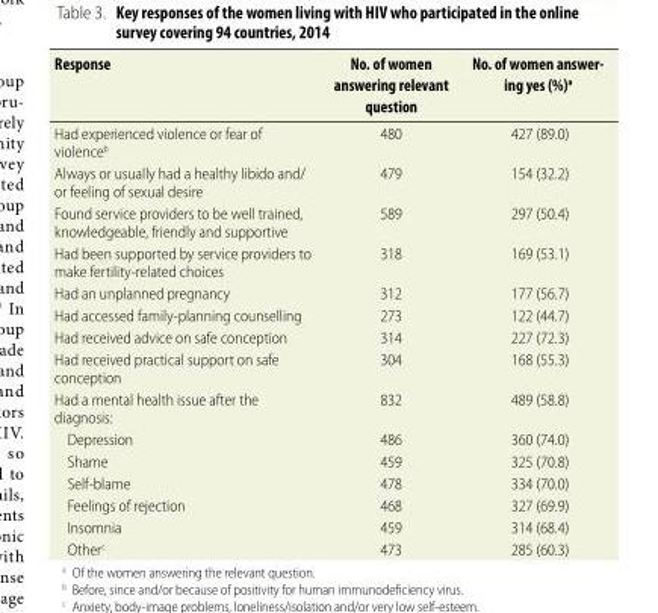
<table><thead><tr><td>Response</td><td>No. of women answering relevant question</td><td>No. of women answer- ing yes (%)a</td></tr></thead><tbody><tr><td>Had experienced violence or fear of violence<sup>b</sup></td><td>480</td><td>427 (89.0)</td></tr><tr><td>Always or usually had a healthy libido and/ or feeling of sexual desire</td><td>479</td><td>154 (32.2)</td></tr><tr><td>Found service providers to be well trained, knowledgeable, friendly and supportive</td><td>589</td><td>297 (50.4)</td></tr><tr><td>Had been supported by service providers to make fertility-related choices</td><td>318</td><td>169 (53.1)</td></tr><tr><td>Had an unplanned pregnancy</td><td>312</td><td>177 (56.7)</td></tr><tr><td>Had accessed family-planning counselling</td><td>273</td><td>122 (44.7)</td></tr><tr><td>Had received advice on safe conception</td><td>314</td><td>227 (72.3)</td></tr><tr><td>Had received practical support on safe conception</td><td>304</td><td>168 (55.3)</td></tr><tr><td>Had a mental health issue after the diagnosis:</td><td>832</td><td>489 (58.8)</td></tr><tr><td>Depression</td><td>486</td><td>360 (74.0)</td></tr><tr><td>Shame</td><td>459</td><td>325 (70.8)</td></tr><tr><td>Self-blame</td><td>478</td><td>334 (70.0)</td></tr><tr><td>Feelings of rejection</td><td>468</td><td>327 (69.9)</td></tr><tr><td>Insomnia</td><td>459</td><td>314 (68.4)</td></tr><tr><td>Other<sup>c</sup></td><td>473</td><td>285 (60.3)</td></tr></tbody></table>